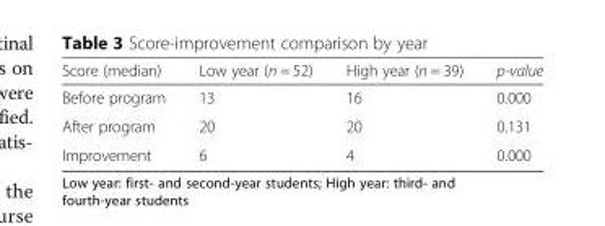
<table><thead><tr><td>Score (median)</td><td>Low year (n = 52)</td><td>High year (n = 39)</td><td>p-value</td></tr></thead><tbody><tr><td>Before program</td><td>13</td><td>16</td><td>0.000</td></tr><tr><td>After program</td><td>20</td><td>20</td><td>0.131</td></tr><tr><td>Improvement</td><td>6</td><td>4</td><td>0.000</td></tr></tbody></table>